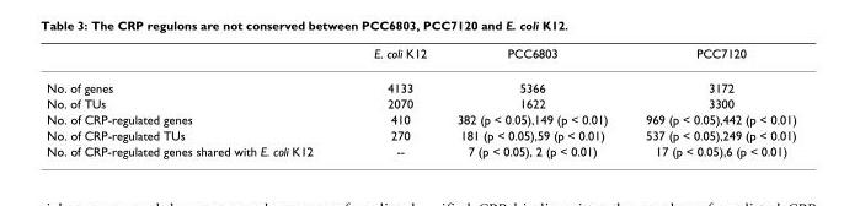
<table><thead><tr><td></td><td>E. coli K12</td><td>PCC6803</td><td>PCC7120</td></tr></thead><tbody><tr><td>No. of genes</td><td>4133</td><td>5366</td><td>3172</td></tr><tr><td>No. of TUs</td><td>2070</td><td>1622</td><td>3300</td></tr><tr><td>No. of CRP-regulated genes</td><td>410</td><td>382 (p &lt; 0.05),149 (p &lt; 0.01)</td><td>969 (p &lt; 0.05),442 (p &lt; 0.01)</td></tr><tr><td>No. of CRP-regulated TUs</td><td>270</td><td>181 (p &lt; 0.05),59 (p &lt; 0.01)</td><td>537 (p &lt; 0.05),249 (p &lt; 0.01)</td></tr><tr><td>No. of CRP-regulated genes shared with E. coli K12</td><td>--</td><td>7 (p &lt; 0.05), 2 (p &lt; 0.01)</td><td>17 (p &lt; 0.05),6 (p &lt; 0.01)</td></tr></tbody></table>